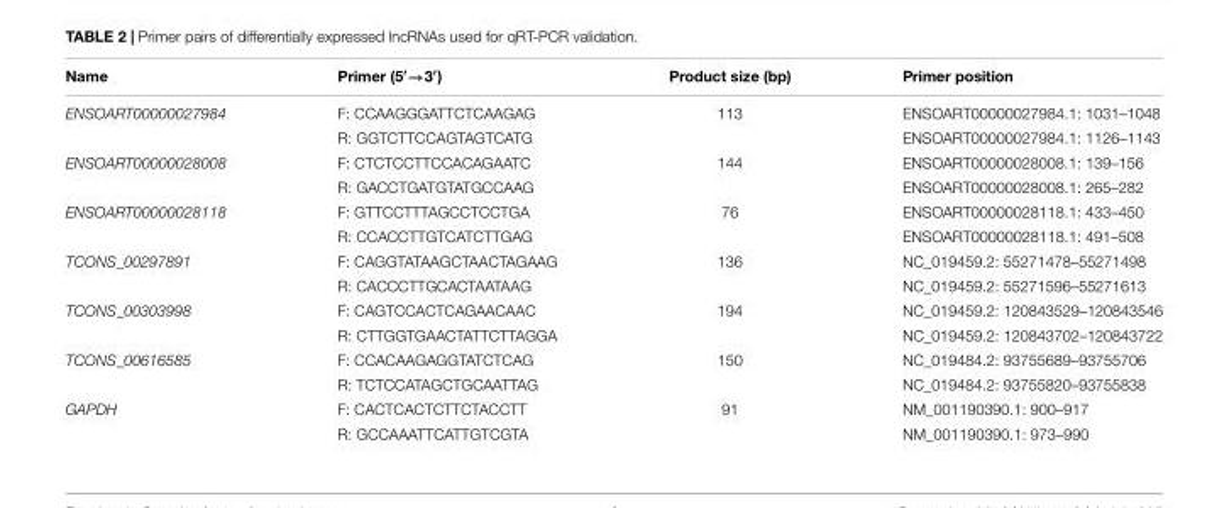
<table><thead><tr><td>Name</td><td>Primer (5<sup>′</sup>→3<sup>′</sup>)</td><td>Product size (bp)</td><td>Primer position</td></tr></thead><tbody><tr><td rowspan="2">ENSOART00000027984</td><td>F: CCAAGGGATTCTCAAGAG</td><td>113</td><td>ENSOART00000027984.1: 1031–1048</td></tr><tr><td>R: GGTCTTCCAGTAGTCATG</td><td></td><td>ENSOART00000027984.1: 1126–1143</td></tr><tr><td rowspan="2">ENSOART00000028008</td><td>F: CTCTCCTTCCACAGAATC</td><td>144</td><td>ENSOART00000028008.1: 139–156</td></tr><tr><td>R: GACCTGATGTATGCCAAG</td><td></td><td>ENSOART00000028008.1: 265–282</td></tr><tr><td rowspan="2">ENSOART00000028118</td><td>F: GTTCCTTTAGCCTCCTGA</td><td>76</td><td>ENSOART00000028118.1: 433–450</td></tr><tr><td>R: CCACCTTGTCATCTTGAG</td><td></td><td>ENSOART00000028118.1: 491–508</td></tr><tr><td rowspan="2">TCONS_00297891</td><td>F: CAGGTATAAGCTAACTAGAAG</td><td>136</td><td>NC_019459.2: 55271478–55271498</td></tr><tr><td>R: CACCCTTGCACTAATAAG</td><td></td><td>NC_019459.2: 55271596–55271613</td></tr><tr><td rowspan="2">TCONS_00303998</td><td>F: CAGTCCACTCAGAACAAC</td><td>194</td><td>NC_019459.2: 120843529–120843546</td></tr><tr><td>R: CTTGGTGAACTATTCTTAGGA</td><td></td><td>NC_019459.2: 120843702–120843722</td></tr><tr><td rowspan="2">TCONS_00616585</td><td>F: CCACAAGAGGTATCTCAG</td><td>150</td><td>NC_019484.2: 93755689–93755706</td></tr><tr><td>R: TCTCCATAGCTGCAATTAG</td><td></td><td>NC_019484.2: 93755820–93755838</td></tr><tr><td rowspan="2">GAPDH</td><td>F: CACTCACTCTTCTACCTT</td><td>91</td><td>NM_001190390.1: 900–917</td></tr><tr><td>R: GCCAAATTCATTGTCGTA</td><td></td><td>NM_001190390.1: 973–990</td></tr></tbody></table>